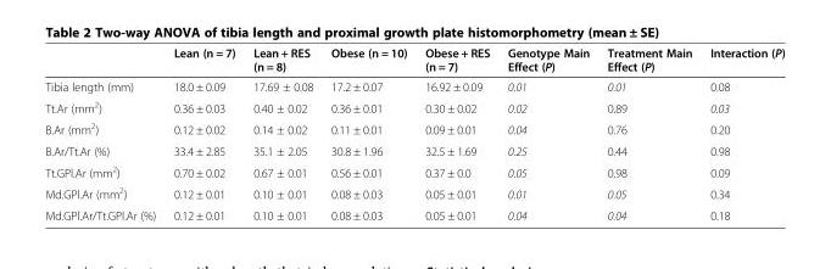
<table><thead><tr><td></td><td>Lean (n = 7)</td><td>Lean + RES (n = 8)</td><td>Obese (n = 10)</td><td>Obese + RES (n = 7)</td><td>Genotype Main Effect (P)</td><td>Treatment Main Effect (P)</td><td>Interaction (P)</td></tr></thead><tbody><tr><td>Tibia length (mm)</td><td>18.0 ± 0.09</td><td>17.69 ± 0.08</td><td>17.2 ± 0.07</td><td>16.92 ± 0.09</td><td>0.01</td><td>0.01</td><td>0.08</td></tr><tr><td>Tt.Ar (mm<sup>2</sup>)</td><td>0.36 ± 0.03</td><td>0.40 ± 0.02</td><td>0.36 ± 0.01</td><td>0.30 ± 0.02</td><td>0.02</td><td>0.89</td><td>0.03</td></tr><tr><td>B.Ar (mm<sup>2</sup>)</td><td>0.12 ± 0.02</td><td>0.14 ± 0.02</td><td>0.11 ± 0.01</td><td>0.09 ± 0.01</td><td>0.04</td><td>0.76</td><td>0.20</td></tr><tr><td>B.Ar/Tt.Ar (%)</td><td>33.4 ± 2.85</td><td>35.1 ± 2.05</td><td>30.8 ± 1.96</td><td>32.5 ± 1.69</td><td>0.25</td><td>0.44</td><td>0.98</td></tr><tr><td>Tt.GPl.Ar (mm<sup>2</sup>)</td><td>0.70 ± 0.02</td><td>0.67 ± 0.01</td><td>0.56 ± 0.01</td><td>0.37 ± 0.0</td><td>0.05</td><td>0.98</td><td>0.09</td></tr><tr><td>Md.GPl.Ar (mm<sup>2</sup>)</td><td>0.12 ± 0.01</td><td>0.10 ± 0.01</td><td>0.08 ± 0.03</td><td>0.05 ± 0.01</td><td>0.01</td><td>0.05</td><td>0.34</td></tr><tr><td>Md.GPl.Ar/Tt.GPl.Ar (%)</td><td>0.12 ± 0.01</td><td>0.10 ± 0.01</td><td>0.08 ± 0.03</td><td>0.05 ± 0.01</td><td>0.04</td><td>0.04</td><td>0.18</td></tr></tbody></table>